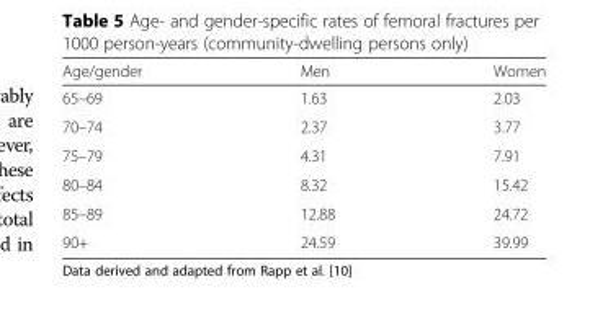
<table><thead><tr><td>Age/gender</td><td>Men</td><td>Women</td></tr></thead><tbody><tr><td>65–69</td><td>1.63</td><td>2.03</td></tr><tr><td>70–74</td><td>2.37</td><td>3.77</td></tr><tr><td>75–79</td><td>4.31</td><td>7.91</td></tr><tr><td>80–84</td><td>8.32</td><td>15.42</td></tr><tr><td>85–89</td><td>12.88</td><td>24.72</td></tr><tr><td>90+</td><td>24.59</td><td>39.99</td></tr></tbody></table>